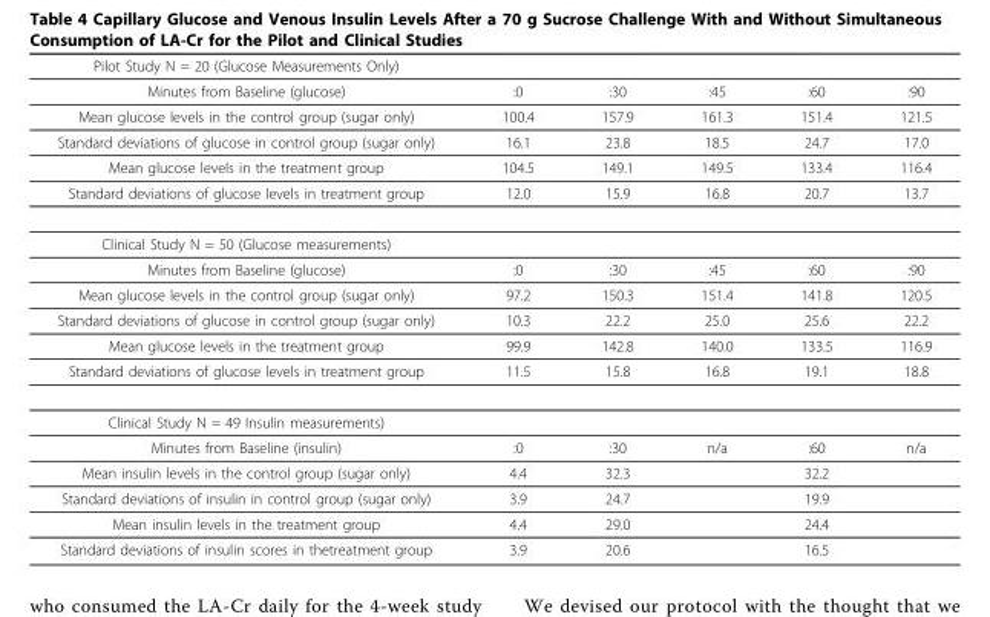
<table><thead><tr><td>Pilot Study N = 20 (Glucose Measurements Only)</td><td></td><td></td><td></td><td></td><td></td></tr></thead><tbody><tr><td>Minutes from Baseline (glucose)</td><td>:0</td><td>:30</td><td>:45</td><td>:60</td><td>:90</td></tr><tr><td>Mean glucose levels in the control group (sugar only)</td><td>100.4</td><td>157.9</td><td>161.3</td><td>151.4</td><td>121.5</td></tr><tr><td>Standard deviations of glucose in control group (sugar only)</td><td>16.1</td><td>23.8</td><td>18.5</td><td>24.7</td><td>17.0</td></tr><tr><td>Mean glucose levels in the treatment group</td><td>104.5</td><td>149.1</td><td>149.5</td><td>133.4</td><td>116.4</td></tr><tr><td>Standard deviations of glucose levels in treatment group</td><td>12.0</td><td>15.9</td><td>16.8</td><td>20.7</td><td>13.7</td></tr><tr><td colspan="6">Clinical Study N = 50 (Glucose measurements)</td></tr><tr><td>Minutes from Baseline (glucose)</td><td>:0</td><td>:30</td><td>:45</td><td>:60</td><td>:90</td></tr><tr><td>Mean glucose levels in the control group (sugar only)</td><td>97.2</td><td>150.3</td><td>151.4</td><td>141.8</td><td>120.5</td></tr><tr><td>Standard deviations of glucose in control group (sugar only)</td><td>10.3</td><td>22.2</td><td>25.0</td><td>25.6</td><td>22.2</td></tr><tr><td>Mean glucose levels in the treatment group</td><td>99.9</td><td>142.8</td><td>140.0</td><td>133.5</td><td>116.9</td></tr><tr><td>Standard deviations of glucose levels in treatment group</td><td>11.5</td><td>15.8</td><td>16.8</td><td>19.1</td><td>18.8</td></tr><tr><td colspan="6">Clinical Study N = 49 Insulin measurements)</td></tr><tr><td>Minutes from Baseline (insulin)</td><td>:0</td><td>:30</td><td>n/a</td><td>:60</td><td>n/a</td></tr><tr><td>Mean insulin levels in the control group (sugar only)</td><td>4.4</td><td>32.3</td><td></td><td>32.2</td><td></td></tr><tr><td>Standard deviations of insulin in control group (sugar only)</td><td>3.9</td><td>24.7</td><td></td><td>19.9</td><td></td></tr><tr><td>Mean insulin levels in the treatment group</td><td>4.4</td><td>29.0</td><td></td><td>24.4</td><td></td></tr><tr><td>Standard deviations of insulin scores in thetreatment group</td><td>3.9</td><td>20.6</td><td></td><td>16.5</td><td></td></tr></tbody></table>